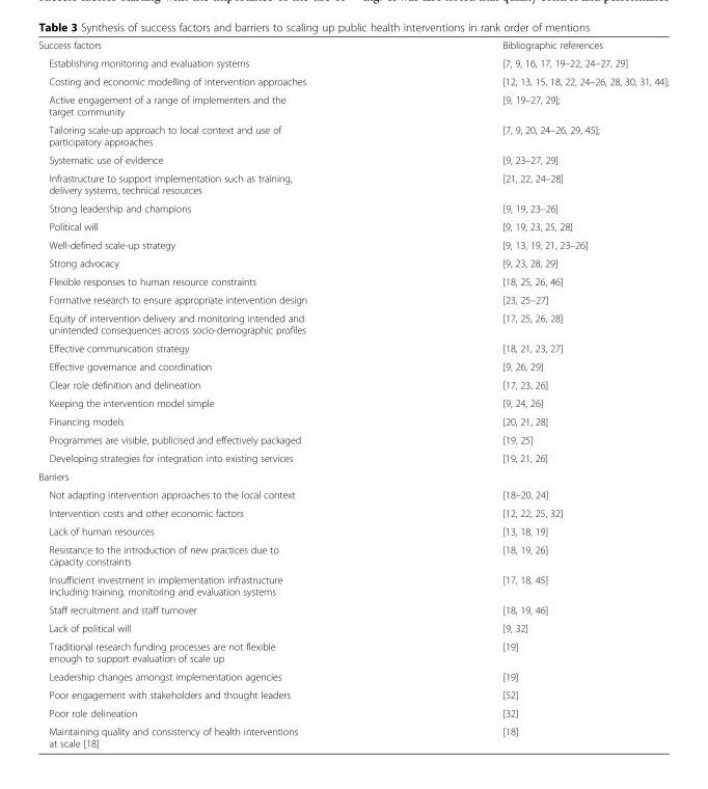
<table><tbody><tr><td>Success factors</td><td>Bibliographic references</td></tr><tr><td>Establishing monitoring and evaluation systems</td><td>[7, 9, 16, 17, 19–22, 24–27, 29]</td></tr><tr><td>Costing and economic modelling of intervention approaches</td><td>[12, 13, 15, 18, 22, 24–26, 28, 30, 31, 44];</td></tr><tr><td>Active engagement of a range of implementers and the target community</td><td>[9, 19–27, 29];</td></tr><tr><td>Tailoring scale-up approach to local context and use of participatory approaches</td><td>[7, 9, 20, 24–26, 29, 45];</td></tr><tr><td>Systematic use of evidence</td><td>[9, 23–27, 29]</td></tr><tr><td>Infrastructure to support implementation such as training, delivery systems, technical resources</td><td>[21, 22, 24–28]</td></tr><tr><td>Strong leadership and champions</td><td>[9, 19, 23–26]</td></tr><tr><td>Political will</td><td>[9, 19, 23, 25, 28]</td></tr><tr><td>Well-defined scale-up strategy</td><td>[9, 13, 19, 21, 23–26]</td></tr><tr><td>Strong advocacy</td><td>[9, 23, 28, 29]</td></tr><tr><td>Flexible responses to human resource constraints</td><td>[18, 25, 26, 46]</td></tr><tr><td>Formative research to ensure appropriate intervention design</td><td>[23, 25–27]</td></tr><tr><td>Equity of intervention delivery and monitoring intended and unintended consequences across socio-demographic profiles</td><td>[17, 25, 26, 28]</td></tr><tr><td>Effective communication strategy</td><td>[18, 21, 23, 27]</td></tr><tr><td>Effective governance and coordination</td><td>[9, 26, 29]</td></tr><tr><td>Clear role definition and delineation</td><td>[17, 23, 26]</td></tr><tr><td>Keeping the intervention model simple</td><td>[9, 24, 26]</td></tr><tr><td>Financing models</td><td>[20, 21, 28]</td></tr><tr><td>Programmes are visible, publicised and effectively packaged</td><td>[19, 25]</td></tr><tr><td>Developing strategies for integration into existing services</td><td>[19, 21, 26]</td></tr><tr><td colspan="2">Barriers</td></tr><tr><td>Not adapting intervention approaches to the local context</td><td>[18–20, 24]</td></tr><tr><td>Intervention costs and other economic factors</td><td>[12, 22, 25, 32]</td></tr><tr><td>Lack of human resources</td><td>[13, 18, 19]</td></tr><tr><td>Resistance to the introduction of new practices due to capacity constraints</td><td>[18, 19, 26]</td></tr><tr><td>Insufficient investment in implementation infrastructure including training, monitoring and evaluation systems</td><td>[17, 18, 45]</td></tr><tr><td>Staff recruitment and staff turnover</td><td>[18, 19, 46]</td></tr><tr><td>Lack of political will</td><td>[9, 32]</td></tr><tr><td>Traditional research funding processes are not flexible enough to support evaluation of scale up</td><td>[19]</td></tr><tr><td>Leadership changes amongst implementation agencies</td><td>[19]</td></tr><tr><td>Poor engagement with stakeholders and thought leaders</td><td>[52]</td></tr><tr><td>Poor role delineation</td><td>[32]</td></tr><tr><td>Maintaining quality and consistency of health interventions at scale [18]</td><td>[18]</td></tr></tbody></table>